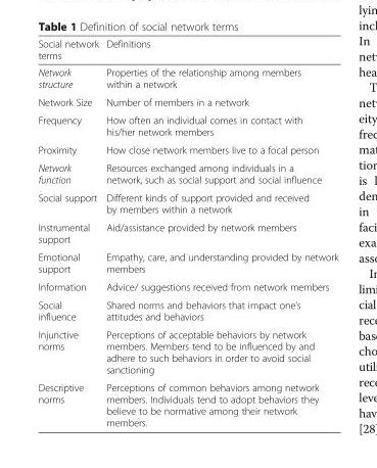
<table><thead><tr><td>Social network terms</td><td>Definitions</td></tr></thead><tbody><tr><td>Network structure</td><td>Properties of the relationship among members within a network</td></tr><tr><td>Network Size</td><td>Number of members in a network</td></tr><tr><td>Frequency</td><td>How often an individual comes in contact with his/her network members</td></tr><tr><td>Proximity</td><td>How close network members live to a focal person</td></tr><tr><td>Network function</td><td>Resources exchanged among individuals in a network, such as social support and social influence</td></tr><tr><td>Social support</td><td>Different kinds of support provided and received by members within a network</td></tr><tr><td>Instrumental support</td><td>Aid/assistance provided by network members</td></tr><tr><td>Emotional support</td><td>Empathy, care, and understanding provided by network members</td></tr><tr><td>Information</td><td>Advice/ suggestions received from network members</td></tr><tr><td>Social influence</td><td>Shared norms and behaviors that impact one’s attitudes and behaviors</td></tr><tr><td>Injunctive norms</td><td>Perceptions of acceptable behaviors by network members. Members tend to be influenced by and adhere to such behaviors in order to avoid social sanctioning</td></tr><tr><td>Descriptive norms</td><td>Perceptions of common behaviors among network members. Individuals tend to adopt behaviors they believe to be normative among their network members.</td></tr></tbody></table>